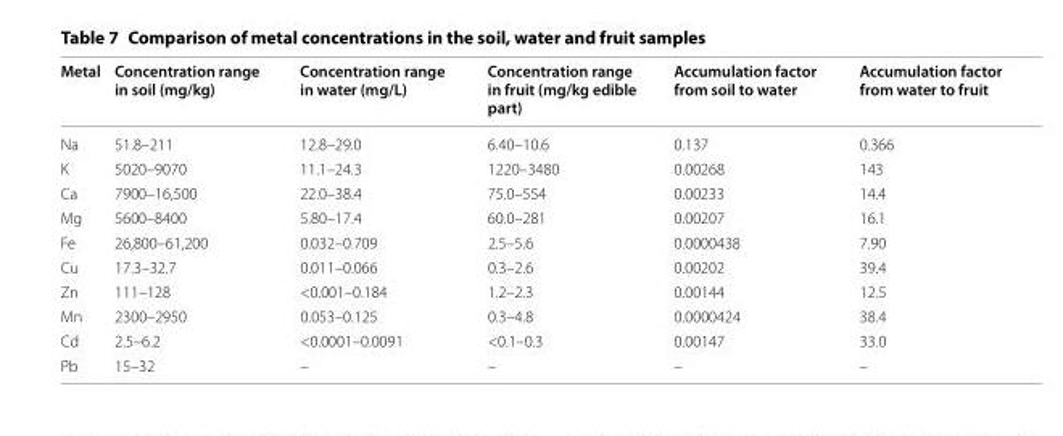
<table><thead><tr><td>Metal</td><td>Concentration range in soil (mg/kg)</td><td>Concentration range in water (mg/L)</td><td>Concentration range in fruit (mg/kg edible part)</td><td>Accumulation factor from soil to water</td><td>Accumulation factor from water to fruit</td></tr></thead><tbody><tr><td>Na</td><td>51.8–211</td><td>12.8–29.0</td><td>6.40–10.6</td><td>0.137</td><td>0.366</td></tr><tr><td>K</td><td>5020–9070</td><td>11.1–24.3</td><td>1220–3480</td><td>0.00268</td><td>143</td></tr><tr><td>Ca</td><td>7900–16,500</td><td>22.0–38.4</td><td>75.0–554</td><td>0.00233</td><td>14.4</td></tr><tr><td>Mg</td><td>5600–8400</td><td>5.80–17.4</td><td>60.0–281</td><td>0.00207</td><td>16.1</td></tr><tr><td>Fe</td><td>26,800–61,200</td><td>0.032–0.709</td><td>2.5–5.6</td><td>0.0000438</td><td>7.90</td></tr><tr><td>Cu</td><td>17.3–32.7</td><td>0.011–0.066</td><td>0.3–2.6</td><td>0.00202</td><td>39.4</td></tr><tr><td>Zn</td><td>111–128</td><td>&lt;0.001–0.184</td><td>1.2–2.3</td><td>0.00144</td><td>12.5</td></tr><tr><td>Mn</td><td>2300–2950</td><td>0.053–0.125</td><td>0.3–4.8</td><td>0.0000424</td><td>38.4</td></tr><tr><td>Cd</td><td>2.5–6.2</td><td>&lt;0.0001–0.0091</td><td>&lt;0.1–0.3</td><td>0.00147</td><td>33.0</td></tr><tr><td>Pb</td><td>15–32</td><td>–</td><td>–</td><td>–</td><td>–</td></tr></tbody></table>